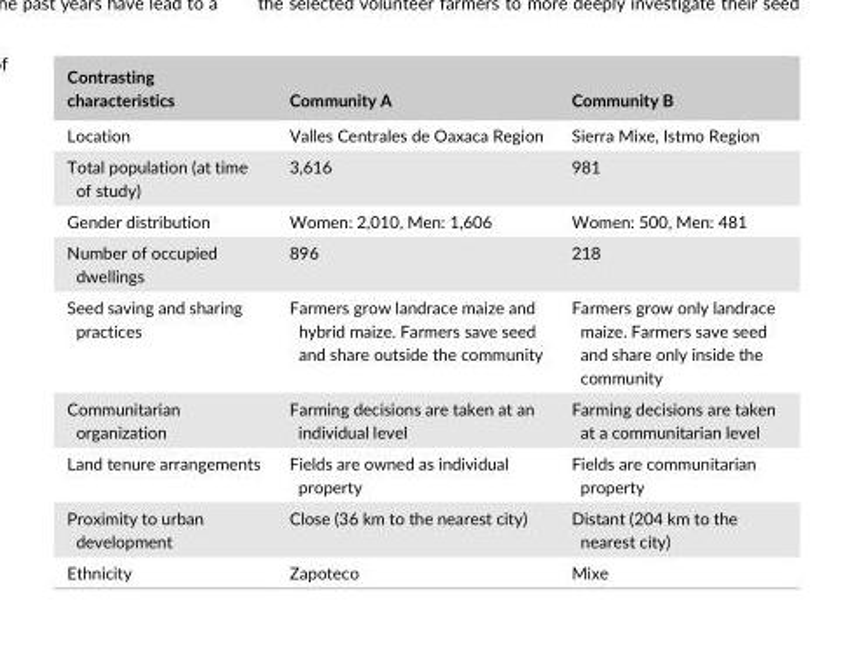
<table><thead><tr><td>Contrasting characteristics</td><td>Community A</td><td>Community B</td></tr></thead><tbody><tr><td>Location</td><td>Valles Centrales de Oaxaca Region</td><td>Sierra Mixe, Istmo Region</td></tr><tr><td>Total population (at time of study)</td><td>3,616</td><td>981</td></tr><tr><td>Gender distribution</td><td>Women: 2,010, Men: 1,606</td><td>Women: 500, Men: 481</td></tr><tr><td>Number of occupied dwellings</td><td>896</td><td>218</td></tr><tr><td>Seed saving and sharing practices</td><td>Farmers grow landrace maize and hybrid maize. Farmers save seed and share outside the community</td><td>Farmers grow only landrace maize. Farmers save seed and share only inside the community</td></tr><tr><td>Communitarian organization</td><td>Farming decisions are taken at an individual level</td><td>Farming decisions are taken at a communitarian level</td></tr><tr><td>Land tenure arrangements</td><td>Fields are owned as individual property</td><td>Fields are communitarian property</td></tr><tr><td>Proximity to urban development</td><td>Close (36 km to the nearest city)</td><td>Distant (204 km to the nearest city)</td></tr><tr><td>Ethnicity</td><td>Zapoteco</td><td>Mixe</td></tr></tbody></table>